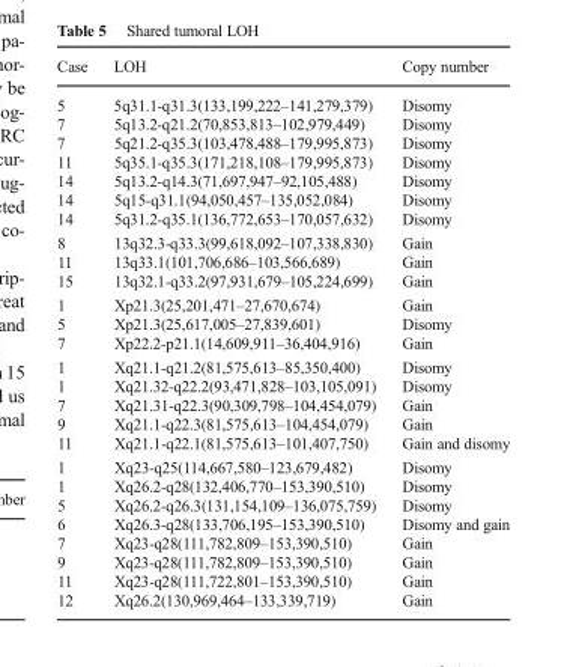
<table><thead><tr><td>Case</td><td>LOH</td><td>Copy number</td></tr></thead><tbody><tr><td>5 7 7 11 14 14 14</td><td>5q31.1-q31.3(133,199,222–141,279,379) 5q13.2-q21.2(70,853,813–102,979,449) 5q21.2-q35.3(103,478,488–179,995,873) 5q35.1-q35.3(171,218,108–179,995,873) 5q13.2-q14.3(71,697,947–92,105,488) 5q15-q31.1(94,050,457–135,052,084) 5q31.2-q35.1(136,772,653–170,057,632)</td><td>Disomy Disomy Disomy Disomy Disomy Disomy Disomy</td></tr><tr><td>8 11 15</td><td>13q32.3-q33.3(99,618,092–107,338,830) 13q33.1(101,706,686–103,566,689) 13q32.1-q33.2(97,931,679–105,224,699)</td><td>Gain Gain Gain</td></tr><tr><td>1 5 7</td><td>Xp21.3(25,201,471–27,670,674) Xp21.3(25,617,005–27,839,601) Xp22.2-p21.1(14,609,911–36,404,916)</td><td>Gain Disomy Gain</td></tr><tr><td>1 1 7 9 11</td><td>Xq21.1-q21.2(81,575,613–85,350,400) Xq21.32-q22.2(93,471,828–103,105,091) Xq21.31-q22.3(90,309,798–104,454,079) Xq21.1-q22.3(81,575,613–104,454,079) Xq21.1-q22.1(81,575,613–101,407,750)</td><td>Disomy Disomy Gain Gain Gain and disomy</td></tr><tr><td>1 1 5 6 7 9 11 12</td><td>Xq23-q25(114,667,580–123,679,482) Xq26.2-q28(132,406,770–153,390,510) Xq26.2-q26.3(131,154,109–136,075,759) Xq26.3-q28(133,706,195–153,390,510) Xq23-q28(111,782,809–153,390,510) Xq23-q28(111,782,809–153,390,510) Xq23-q28(111,722,801–153,390,510) Xq26.2(130,969,464–133,339,719)</td><td>Disomy Disomy Disomy Disomy and gain Gain Gain Gain Gain</td></tr></tbody></table>